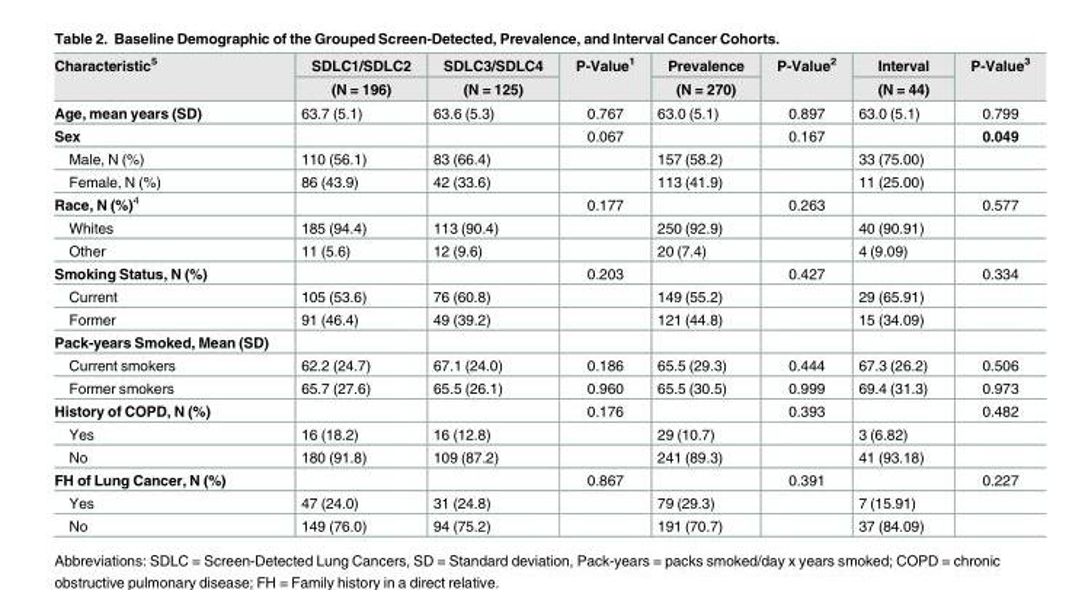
<table><thead><tr><td rowspan="2">Characteristic<sup>5</sup></td><td rowspan="2">SDLC1/SDLC2 (N = 196)</td><td rowspan="2">SDLC3/SDLC4 (N = 125)</td><td rowspan="2">P-Value<sup>1</sup></td><td rowspan="2">Prevalence (N = 270)</td><td rowspan="2">P-Value<sup>2</sup></td><td rowspan="2">Interval (N = 44)</td><td rowspan="2">P-Value<sup>3</sup></td></tr><tr></tr></thead><tbody><tr><td>Age, mean years (SD)</td><td>63.7 (5.1)</td><td>63.6 (5.3)</td><td>0.767</td><td>63.0 (5.1)</td><td>0.897</td><td>63.0 (5.1)</td><td>0.799</td></tr><tr><td>Sex</td><td></td><td></td><td>0.067</td><td></td><td>0.167</td><td></td><td>0.049</td></tr><tr><td>Male, N (%)</td><td>110 (56.1)</td><td>83 (66.4)</td><td></td><td>157 (58.2)</td><td></td><td>33 (75.00)</td><td></td></tr><tr><td>Female, N (%)</td><td>86 (43.9)</td><td>42 (33.6)</td><td></td><td>113 (41.9)</td><td></td><td>11 (25.00)</td><td></td></tr><tr><td>Race, N (%)<sup>4</sup></td><td></td><td></td><td>0.177</td><td></td><td>0.263</td><td></td><td>0.577</td></tr><tr><td>Whites</td><td>185 (94.4)</td><td>113 (90.4)</td><td></td><td>250 (92.9)</td><td></td><td>40 (90.91)</td><td></td></tr><tr><td>Other</td><td>11 (5.6)</td><td>12 (9.6)</td><td></td><td>20 (7.4)</td><td></td><td>4 (9.09)</td><td></td></tr><tr><td>Smoking Status, N (%)</td><td></td><td></td><td>0.203</td><td></td><td>0.427</td><td></td><td>0.334</td></tr><tr><td>Current</td><td>105 (53.6)</td><td>76 (60.8)</td><td></td><td>149 (55.2)</td><td></td><td>29 (65.91)</td><td></td></tr><tr><td>Former</td><td>91 (46.4)</td><td>49 (39.2)</td><td></td><td>121 (44.8)</td><td></td><td>15 (34.09)</td><td></td></tr><tr><td colspan="8">Pack-years Smoked, Mean (SD)</td></tr><tr><td>Current smokers</td><td>62.2 (24.7)</td><td>67.1 (24.0)</td><td>0.186</td><td>65.5 (29.3)</td><td>0.444</td><td>67.3 (26.2)</td><td>0.506</td></tr><tr><td>Former smokers</td><td>65.7 (27.6)</td><td>65.5 (26.1)</td><td>0.960</td><td>65.5 (30.5)</td><td>0.999</td><td>69.4 (31.3)</td><td>0.973</td></tr><tr><td>History of COPD, N (%)</td><td></td><td></td><td>0.176</td><td></td><td>0.393</td><td></td><td>0.482</td></tr><tr><td>Yes</td><td>16 (18.2)</td><td>16 (12.8)</td><td></td><td>29 (10.7)</td><td></td><td>3 (6.82)</td><td></td></tr><tr><td>No</td><td>180 (91.8)</td><td>109 (87.2)</td><td></td><td>241 (89.3)</td><td></td><td>41 (93.18)</td><td></td></tr><tr><td>FH of Lung Cancer, N (%)</td><td></td><td></td><td>0.867</td><td></td><td>0.391</td><td></td><td>0.227</td></tr><tr><td>Yes</td><td>47 (24.0)</td><td>31 (24.8)</td><td></td><td>79 (29.3)</td><td></td><td>7 (15.91)</td><td></td></tr><tr><td>No</td><td>149 (76.0)</td><td>94 (75.2)</td><td></td><td>191 (70.7)</td><td></td><td>37 (84.09)</td><td></td></tr></tbody></table>